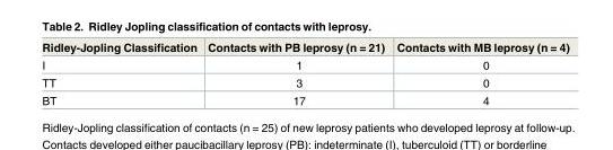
<table><thead><tr><td>Ridley-Jopling Classification</td><td>Contacts with PB leprosy (n = 21)</td><td>Contacts with MB leprosy (n = 4)</td></tr></thead><tbody><tr><td>I</td><td>1</td><td>0</td></tr><tr><td>TT</td><td>3</td><td>0</td></tr><tr><td>BT</td><td>17</td><td>4</td></tr></tbody></table>